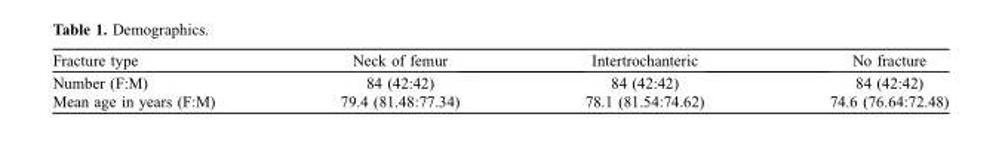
<table><thead><tr><td>Fracture type</td><td>Neck of femur</td><td>Intertrochanteric</td><td>No fracture</td></tr></thead><tbody><tr><td>Number (F:M)</td><td>84 (42:42)</td><td>84 (42:42)</td><td>84 (42:42)</td></tr><tr><td>Mean age in years (F:M)</td><td>79.4 (81.48:77.34)</td><td>78.1 (81.54:74.62)</td><td>74.6 (76.64:72.48)</td></tr></tbody></table>